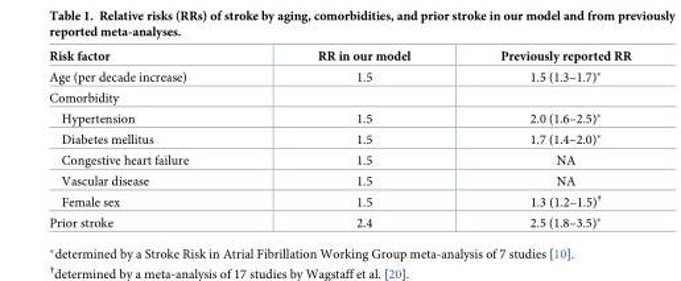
<table><thead><tr><td>Risk factor</td><td>RR in our model</td><td>Previously reported RR</td></tr></thead><tbody><tr><td>Age (per decade increase)</td><td>1.5</td><td>1.5 (1.3–1.7)*</td></tr><tr><td colspan="3">Comorbidity</td></tr><tr><td>Hypertension</td><td>1.5</td><td>2.0 (1.6–2.5)*</td></tr><tr><td>Diabetes mellitus</td><td>1.5</td><td>1.7 (1.4–2.0)*</td></tr><tr><td>Congestive heart failure</td><td>1.5</td><td>NA</td></tr><tr><td>Vascular disease</td><td>1.5</td><td>NA</td></tr><tr><td>Female sex</td><td>1.5</td><td>1.3 (1.2–1.5)<sup>†</sup></td></tr><tr><td>Prior stroke</td><td>2.4</td><td>2.5 (1.8–3.5)*</td></tr></tbody></table>